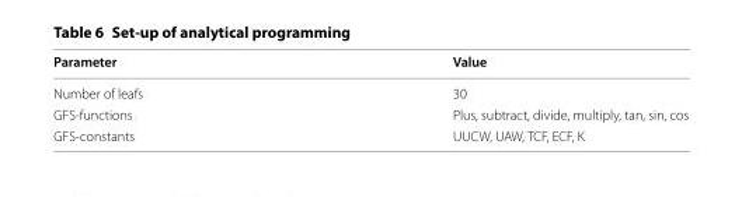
<table><thead><tr><td>Parameter</td><td>Value</td></tr></thead><tbody><tr><td>Number of leafs</td><td>30</td></tr><tr><td>GFS-functions</td><td>Plus, subtract, divide, multiply, tan, sin, cos</td></tr><tr><td>GFS-constants</td><td>UUCW, UAW, TCF, ECF, K</td></tr></tbody></table>